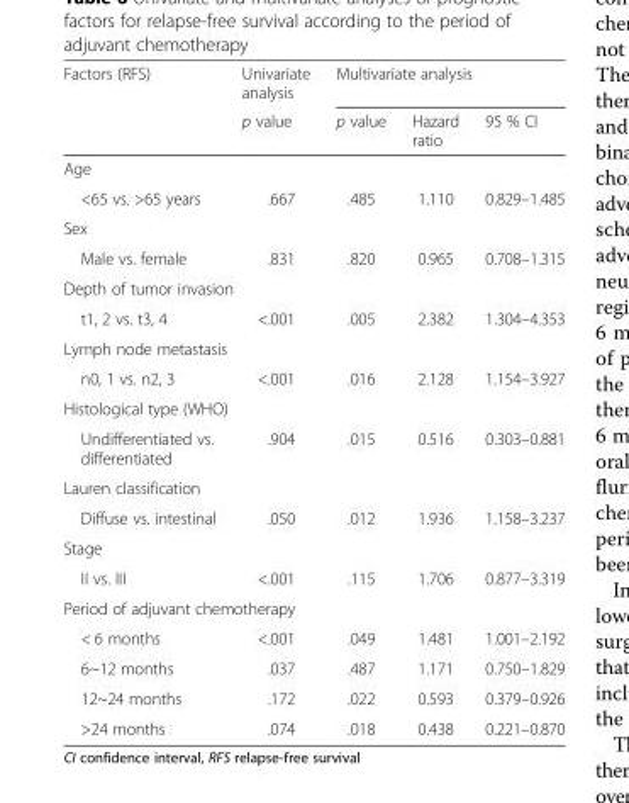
<table><thead><tr><td rowspan="2">Factors (RFS)</td><td rowspan="2">Univariate analysis p value</td><td colspan="3">Multivariate analysis</td></tr><tr><td>p value</td><td>Hazard ratio</td><td>95 % CI</td></tr></thead><tbody><tr><td colspan="5">Age</td></tr><tr><td>&lt;65 vs. &gt;65 years</td><td>.667</td><td>.485</td><td>1.110</td><td>0.829–1.485</td></tr><tr><td colspan="5">Sex</td></tr><tr><td>Male vs. female</td><td>.831</td><td>.820</td><td>0.965</td><td>0.708–1.315</td></tr><tr><td colspan="5">Depth of tumor invasion</td></tr><tr><td>t1, 2 vs. t3, 4</td><td>&lt;.001</td><td>.005</td><td>2.382</td><td>1.304–4.353</td></tr><tr><td colspan="5">Lymph node metastasis</td></tr><tr><td>n0, 1 vs. n2, 3</td><td>&lt;.001</td><td>.016</td><td>2.128</td><td>1.154–3.927</td></tr><tr><td colspan="5">Histological type (WHO)</td></tr><tr><td>Undifferentiated vs. differentiated</td><td>.904</td><td>.015</td><td>0.516</td><td>0.303–0.881</td></tr><tr><td colspan="5">Lauren classification</td></tr><tr><td>Diffuse vs. intestinal</td><td>.050</td><td>.012</td><td>1.936</td><td>1.158–3.237</td></tr><tr><td colspan="5">Stage</td></tr><tr><td>II vs. III</td><td>&lt;.001</td><td>.115</td><td>1.706</td><td>0.877–3.319</td></tr><tr><td colspan="5">Period of adjuvant chemotherapy</td></tr><tr><td>&lt; 6 months</td><td>&lt;.001</td><td>.049</td><td>1.481</td><td>1.001–2.192</td></tr><tr><td>6~12 months</td><td>.037</td><td>.487</td><td>1.171</td><td>0.750–1.829</td></tr><tr><td>12~24 months</td><td>.172</td><td>.022</td><td>0.593</td><td>0.379–0.926</td></tr><tr><td>&gt;24 months</td><td>.074</td><td>.018</td><td>0.438</td><td>0.221–0.870</td></tr></tbody></table>